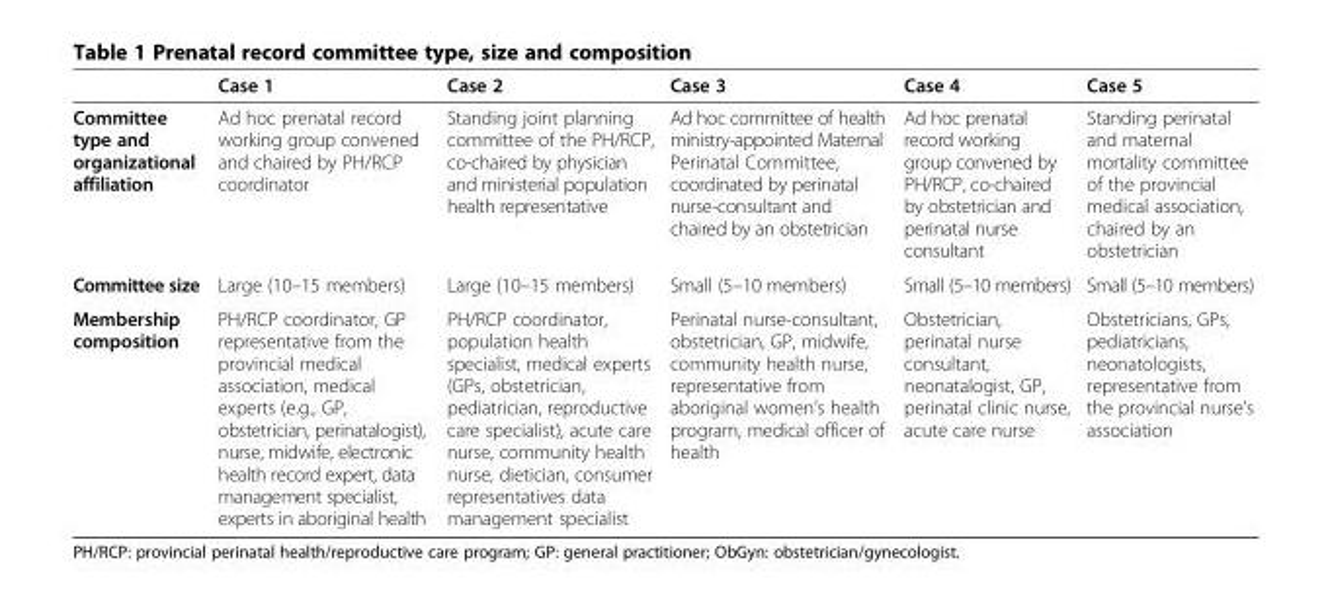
<table><thead><tr><td></td><td>Case 1</td><td>Case 2</td><td>Case 3</td><td>Case 4</td><td>Case 5</td></tr></thead><tbody><tr><td>Committee type and organizational affiliation</td><td>Ad hoc prenatal record working group convened and chaired by PH/RCP coordinator</td><td>Standing joint planning committee of the PH/RCP, co-chaired by physician and ministerial population health representative</td><td>Ad hoc committee of health ministry-appointed Maternal Perinatal Committee, coordinated by perinatal nurse-consultant and chaired by an obstetrician</td><td>Ad hoc prenatal record working group convened by PH/RCP, co-chaired by obstetrician and perinatal nurse consultant</td><td>Standing perinatal and maternal mortality committee of the provincial medical association, chaired by an obstetrician</td></tr><tr><td>Committee size</td><td>Large (10–15 members)</td><td>Large (10–15 members)</td><td>Small (5–10 members)</td><td>Small (5–10 members)</td><td>Small (5–10 members)</td></tr><tr><td>Membership composition</td><td>PH/RCP coordinator, GP representative from the provincial medical association, medical experts (e.g., GP, obstetrician, perinatalogist), nurse, midwife, electronic health record expert, data management specialist, experts in aboriginal health</td><td>PH/RCP coordinator, population health specialist, medical experts (GPs, obstetrician, pediatrician, reproductive care specialist), acute care nurse, community health nurse, dietician, consumer representatives data management specialist</td><td>Perinatal nurse-consultant, obstetrician, GP, midwife, community health nurse, representative from aboriginal women’s health program, medical officer of health</td><td>Obstetrician, perinatal nurse consultant, neonatalogist, GP, perinatal clinic nurse, acute care nurse</td><td>Obstetricians, GPs, pediatricians, neonatologists, representative from the provincial nurse’s association</td></tr></tbody></table>